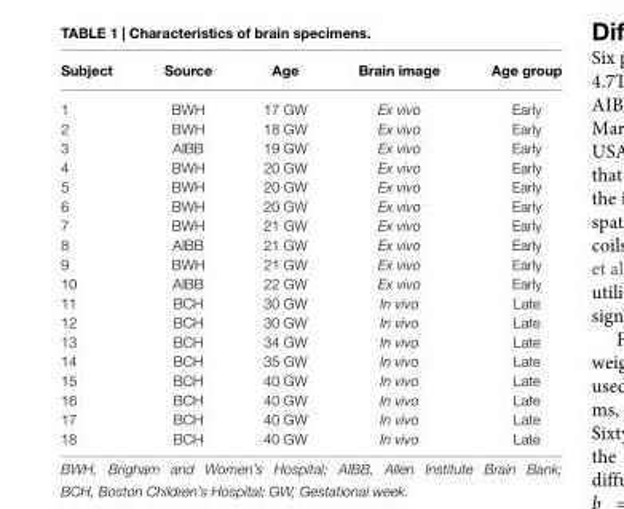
<table><thead><tr><td>Subject</td><td>Source</td><td>Age</td><td>Brain image</td><td>Age group</td></tr></thead><tbody><tr><td>1</td><td>BWH</td><td>17 GW</td><td>Ex vivo</td><td>Early</td></tr><tr><td>2</td><td>BWH</td><td>18 GW</td><td>Ex vivo</td><td>Early</td></tr><tr><td>3</td><td>AIBB</td><td>19 GW</td><td>Ex vivo</td><td>Early</td></tr><tr><td>4</td><td>BWH</td><td>20 GW</td><td>Ex vivo</td><td>Early</td></tr><tr><td>5</td><td>BWH</td><td>20 GW</td><td>Ex vivo</td><td>Early</td></tr><tr><td>6</td><td>BWH</td><td>20 GW</td><td>Ex vivo</td><td>Early</td></tr><tr><td>7</td><td>BWH</td><td>21 GW</td><td>Ex vivo</td><td>Early</td></tr><tr><td>8</td><td>AIBB</td><td>21 GW</td><td>Ex vivo</td><td>Early</td></tr><tr><td>9</td><td>BWH</td><td>21 GW</td><td>Ex vivo</td><td>Early</td></tr><tr><td>10</td><td>AIBB</td><td>22 GW</td><td>Ex vivo</td><td>Early</td></tr><tr><td>11</td><td>BCH</td><td>30 GW</td><td>In vivo</td><td>Late</td></tr><tr><td>12</td><td>BCH</td><td>30 GW</td><td>In vivo</td><td>Late</td></tr><tr><td>13</td><td>BCH</td><td>34 GW</td><td>In vivo</td><td>Late</td></tr><tr><td>14</td><td>BCH</td><td>35 GW</td><td>In vivo</td><td>Late</td></tr><tr><td>15</td><td>BCH</td><td>40 GW</td><td>In vivo</td><td>Late</td></tr><tr><td>16</td><td>BCH</td><td>40 GW</td><td>In vivo</td><td>Late</td></tr><tr><td>17</td><td>BCH</td><td>40 GW</td><td>In vivo</td><td>Late</td></tr><tr><td>18</td><td>BCH</td><td>40 GW</td><td>In vivo</td><td>Late</td></tr></tbody></table>